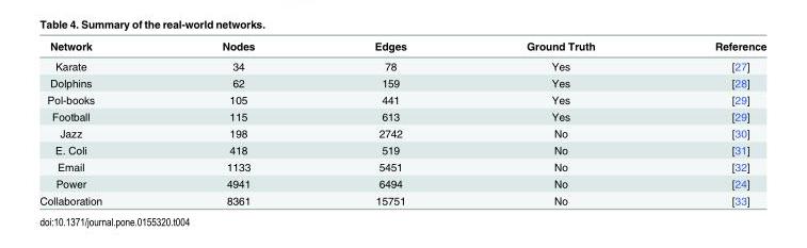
<table><thead><tr><td>Network</td><td>Nodes</td><td>Edges</td><td>Ground Truth</td><td>Reference</td></tr></thead><tbody><tr><td>Karate</td><td>34</td><td>78</td><td>Yes</td><td>[27]</td></tr><tr><td>Dolphins</td><td>62</td><td>159</td><td>Yes</td><td>[28]</td></tr><tr><td>Pol-books</td><td>105</td><td>441</td><td>Yes</td><td>[29]</td></tr><tr><td>Football</td><td>115</td><td>613</td><td>Yes</td><td>[29]</td></tr><tr><td>Jazz</td><td>198</td><td>2742</td><td>No</td><td>[30]</td></tr><tr><td>E. Coli</td><td>418</td><td>519</td><td>No</td><td>[31]</td></tr><tr><td>Email</td><td>1133</td><td>5451</td><td>No</td><td>[32]</td></tr><tr><td>Power</td><td>4941</td><td>6494</td><td>No</td><td>[24]</td></tr><tr><td>Collaboration</td><td>8361</td><td>15751</td><td>No</td><td>[33]</td></tr></tbody></table>